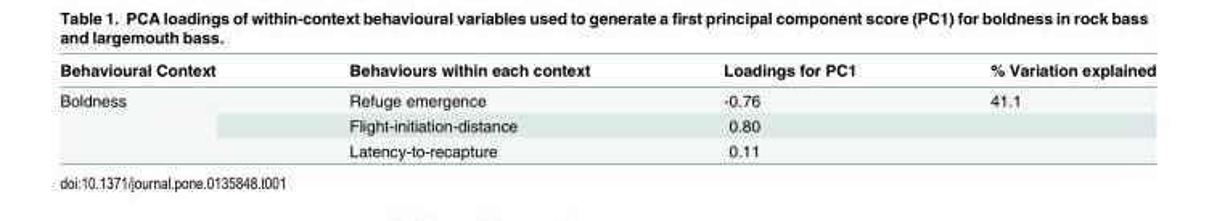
<table><thead><tr><td>Behavioural Context</td><td>Behaviours within each context</td><td>Loadings for PC1</td><td>% Variation explained</td></tr></thead><tbody><tr><td rowspan="3">Boldness</td><td>Refuge emergence</td><td>-0.76</td><td>41.1</td></tr><tr><td>Flight-initiation-distance</td><td>0.80</td><td></td></tr><tr><td>Latency-to-recapture</td><td>0.11</td><td></td></tr></tbody></table>